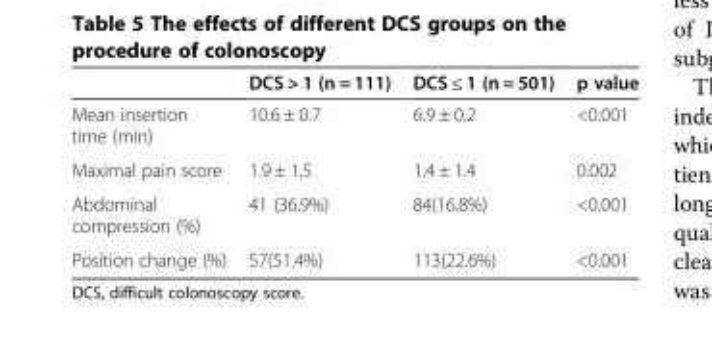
<table><thead><tr><td></td><td>DCS &gt; 1 (n = 111)</td><td>DCS ≤ 1 (n = 501)</td><td>p value</td></tr></thead><tbody><tr><td>Mean insertion time (min)</td><td>10.6 ± 0.7</td><td>6.9 ± 0.2</td><td>&lt;0.001</td></tr><tr><td>Maximal pain score</td><td>1.9 ± 1.5</td><td>1.4 ± 1.4</td><td>0.002</td></tr><tr><td>Abdominal compression (%)</td><td>41 (36.9%)</td><td>84(16.8%)</td><td>&lt;0.001</td></tr><tr><td>Position change (%)</td><td>57(51.4%)</td><td>113(22.6%)</td><td>&lt;0.001</td></tr></tbody></table>